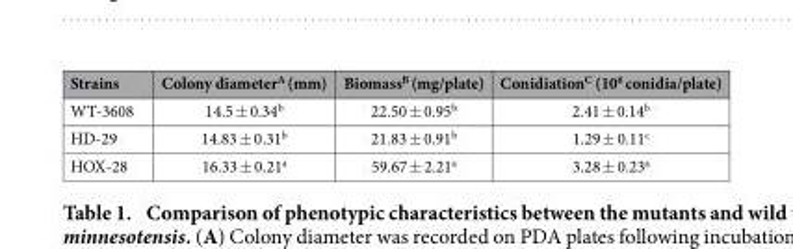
<table><thead><tr><td>Strains</td><td>Colony diameter<sup>A</sup> (mm)</td><td>Biomass<sup>B</sup> (mg/plate)</td><td>Conidiation<sup>C</sup> (10<sup>6</sup> conidia/plate)</td></tr></thead><tbody><tr><td>WT-3608</td><td>14.5 ± 0.34<sup>b</sup></td><td>22.50 ± 0.95<sup>b</sup></td><td>2.41 ± 0.14<sup>b</sup></td></tr><tr><td>HD-29</td><td>14.83 ± 0.31<sup>b</sup></td><td>21.83 ± 0.91<sup>b</sup></td><td>1.29 ± 0.11<sup>c</sup></td></tr><tr><td>HOX-28</td><td>16.33 ± 0.21<sup>a</sup></td><td>59.67 ± 2.21<sup>a</sup></td><td>3.28 ± 0.23<sup>a</sup></td></tr></tbody></table>